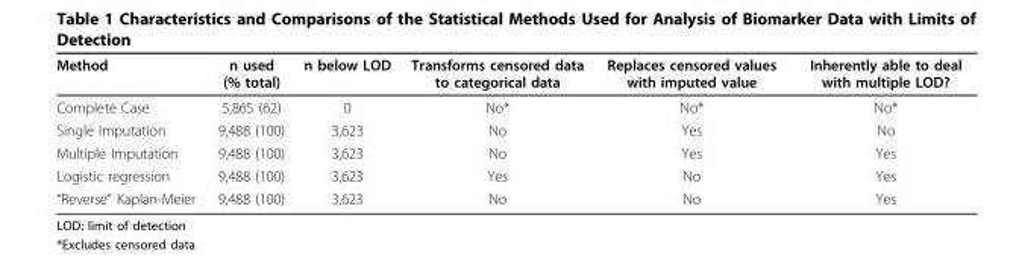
<table><thead><tr><td>Method</td><td>n used (% total)</td><td>n below LOD</td><td>Transforms censored data to categorical data</td><td>Replaces censored values with imputed value</td><td>Inherently able to deal with multiple LOD?</td></tr></thead><tbody><tr><td>Complete Case</td><td>5,865 (62)</td><td>0</td><td>No*</td><td>No*</td><td>No*</td></tr><tr><td>Single Imputation</td><td>9,488 (100)</td><td>3,623</td><td>No</td><td>Yes</td><td>No</td></tr><tr><td>Multiple Imputation</td><td>9,488 (100)</td><td>3,623</td><td>No</td><td>Yes</td><td>Yes</td></tr><tr><td>Logistic regression</td><td>9,488 (100)</td><td>3,623</td><td>Yes</td><td>No</td><td>Yes</td></tr><tr><td>“Reverse” Kaplan-Meier</td><td>9,488 (100)</td><td>3,623</td><td>No</td><td>No</td><td>Yes</td></tr></tbody></table>